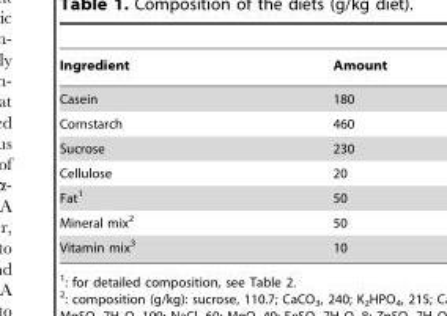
<table><thead><tr><td>Ingredient</td><td>Amount</td></tr></thead><tbody><tr><td>Casein</td><td>180</td></tr><tr><td>Cornstarch</td><td>460</td></tr><tr><td>Sucrose</td><td>230</td></tr><tr><td>Cellulose</td><td>20</td></tr><tr><td>Fat<sup>1</sup></td><td>50</td></tr><tr><td>Mineral mix<sup>2</sup></td><td>50</td></tr><tr><td>Vitamin mix<sup>3</sup></td><td>10</td></tr></tbody></table>